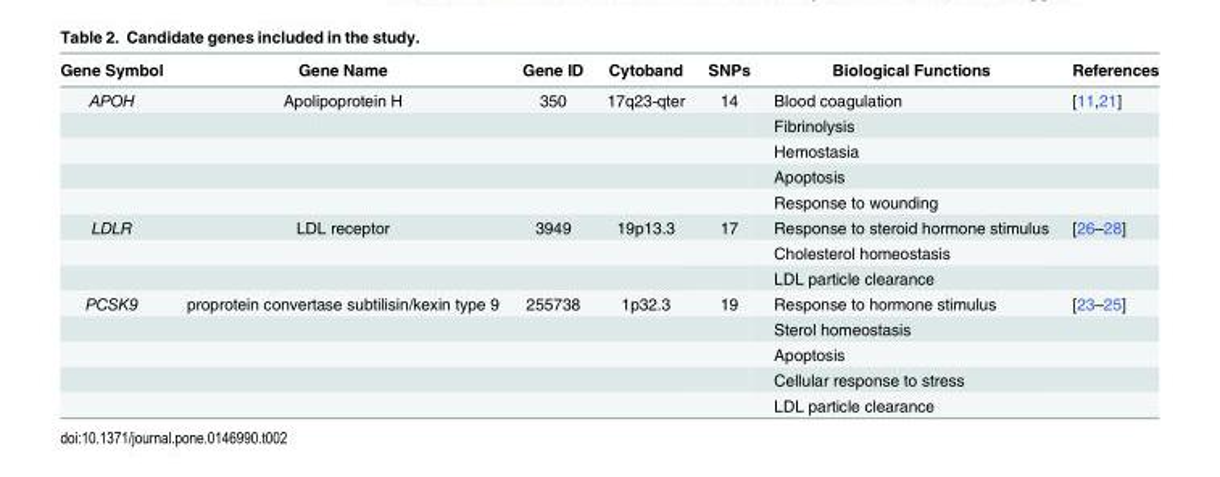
<table><thead><tr><td>Gene Symbol</td><td>Gene Name</td><td>Gene ID</td><td>Cytoband</td><td>SNPs</td><td>Biological Functions</td><td>References</td></tr></thead><tbody><tr><td rowspan="5">APOH</td><td>Apolipoprotein H</td><td>350</td><td>17q23-qter</td><td>14</td><td>Blood coagulation</td><td>[11,21]</td></tr><tr><td></td><td></td><td></td><td></td><td>Fibrinolysis</td><td></td></tr><tr><td></td><td></td><td></td><td></td><td>Hemostasia</td><td></td></tr><tr><td></td><td></td><td></td><td></td><td>Apoptosis</td><td></td></tr><tr><td></td><td></td><td></td><td></td><td>Response to wounding</td><td></td></tr><tr><td rowspan="3">LDLR</td><td>LDL receptor</td><td>3949</td><td>19p13.3</td><td>17</td><td>Response to steroid hormone stimulus</td><td>[26–28]</td></tr><tr><td></td><td></td><td></td><td></td><td>Cholesterol homeostasis</td><td></td></tr><tr><td></td><td></td><td></td><td></td><td>LDL particle clearance</td><td></td></tr><tr><td rowspan="5">PCSK9</td><td>proprotein convertase subtilisin/kexin type 9</td><td>255738</td><td>1p32.3</td><td>19</td><td>Response to hormone stimulus</td><td>[23–25]</td></tr><tr><td></td><td></td><td></td><td></td><td>Sterol homeostasis</td><td></td></tr><tr><td></td><td></td><td></td><td></td><td>Apoptosis</td><td></td></tr><tr><td></td><td></td><td></td><td></td><td>Cellular response to stress</td><td></td></tr><tr><td></td><td></td><td></td><td></td><td>LDL particle clearance</td><td></td></tr></tbody></table>